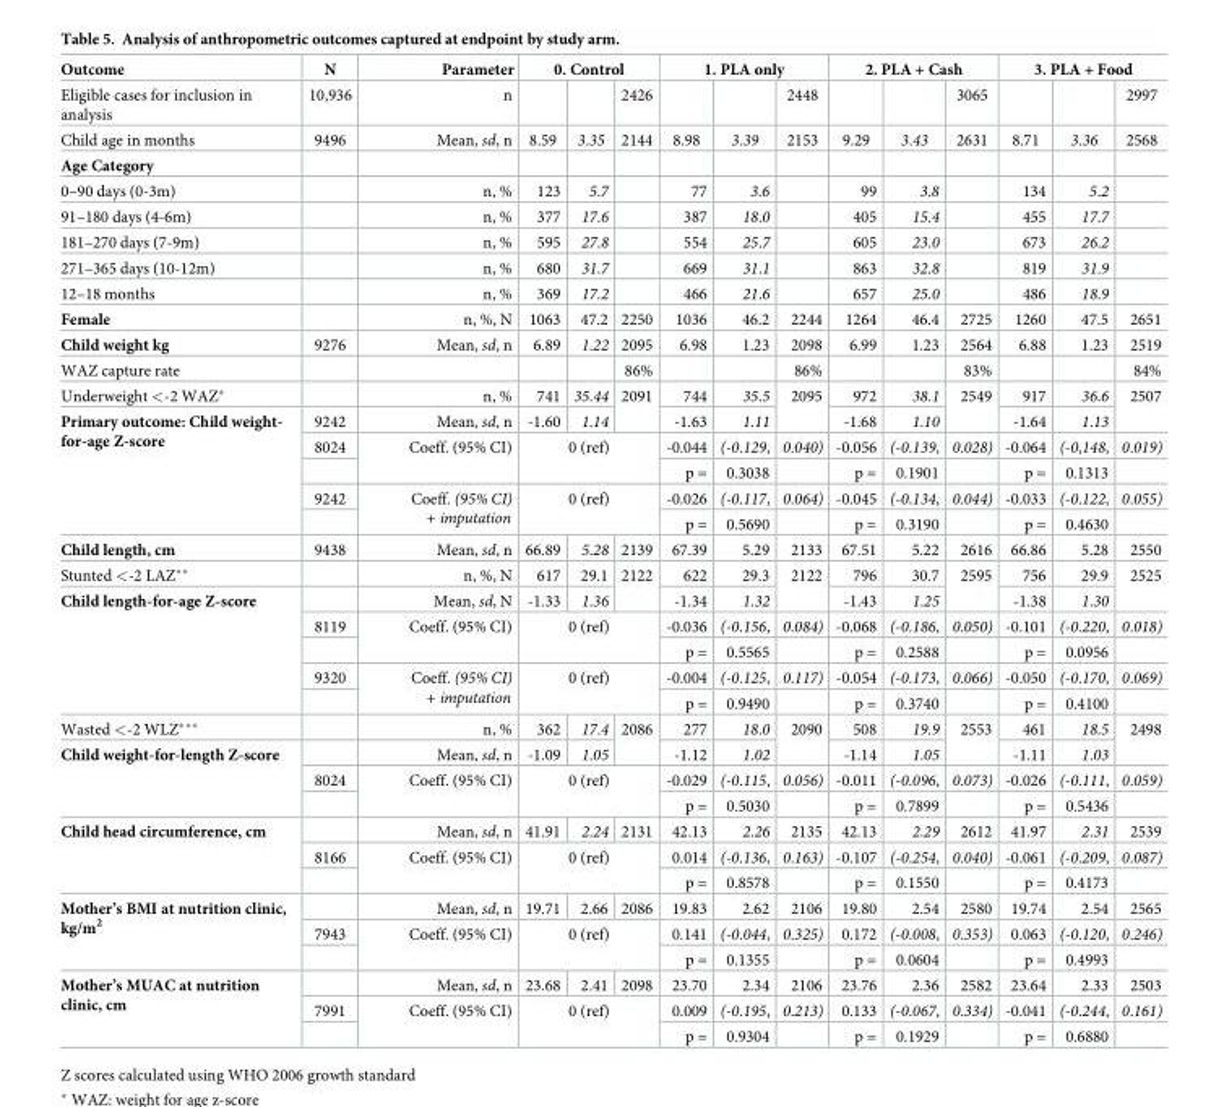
<table><thead><tr><td rowspan="2">Outcome Eligible cases for inclusion in analysis</td><td rowspan="2">N 10,936</td><td rowspan="2">Parameter n</td><td colspan="3">0. Control</td><td colspan="3">1. PLA only</td><td colspan="3">2. PLA + Cash</td><td colspan="3">3. PLA + Food</td></tr><tr><td></td><td></td><td>2426</td><td></td><td></td><td>2448</td><td></td><td></td><td>3065</td><td></td><td></td><td>2997</td></tr></thead><tbody><tr><td>Child age in months</td><td>9496</td><td>Mean, sd, n</td><td>8.59</td><td>3.35</td><td>2144</td><td>8.98</td><td>3.39</td><td>2153</td><td>9.29</td><td>3.43</td><td>2631</td><td>8.71</td><td>3.36</td><td>2568</td></tr><tr><td colspan="15">Age Category</td></tr><tr><td>0–90 days (0-3m)</td><td></td><td>n, %</td><td>123</td><td>5.7</td><td></td><td>77</td><td>3.6</td><td></td><td>99</td><td>3.8</td><td></td><td>134</td><td>5.2</td><td></td></tr><tr><td>91–180 days (4-6m)</td><td></td><td>n, %</td><td>377</td><td>17.6</td><td></td><td>387</td><td>18.0</td><td></td><td>405</td><td>15.4</td><td></td><td>455</td><td>17.7</td><td></td></tr><tr><td>181–270 days (7-9m)</td><td></td><td>n, %</td><td>595</td><td>27.8</td><td></td><td>554</td><td>25.7</td><td></td><td>605</td><td>23.0</td><td></td><td>673</td><td>26.2</td><td></td></tr><tr><td>271–365 days (10-12m)</td><td></td><td>n, %</td><td>680</td><td>31.7</td><td></td><td>669</td><td>31.1</td><td></td><td>863</td><td>32.8</td><td></td><td>819</td><td>31.9</td><td></td></tr><tr><td>12–18 months</td><td></td><td>n, %</td><td>369</td><td>17.2</td><td></td><td>466</td><td>21.6</td><td></td><td>657</td><td>25.0</td><td></td><td>486</td><td>18.9</td><td></td></tr><tr><td>Female</td><td></td><td>n, %, N</td><td>1063</td><td>47.2</td><td>2250</td><td>1036</td><td>46.2</td><td>2244</td><td>1264</td><td>46.4</td><td>2725</td><td>1260</td><td>47.5</td><td>2651</td></tr><tr><td>Child weight kg</td><td>9276</td><td>Mean, sd, n</td><td>6.89</td><td>1.22</td><td>2095</td><td>6.98</td><td>1.23</td><td>2098</td><td>6.99</td><td>1.23</td><td>2564</td><td>6.88</td><td>1.23</td><td>2519</td></tr><tr><td>WAZ capture rate</td><td></td><td></td><td></td><td></td><td>86%</td><td></td><td></td><td>86%</td><td></td><td></td><td>83%</td><td></td><td></td><td>84%</td></tr><tr><td>Underweight &lt;-2 WAZ*</td><td></td><td>n, %</td><td>741</td><td>35.44</td><td rowspan="2">2091</td><td>744</td><td>35.5</td><td rowspan="2">2095</td><td>972</td><td>38.1</td><td rowspan="2">2549</td><td>917</td><td>36.6</td><td rowspan="2">2507</td></tr><tr><td rowspan="5">Primary outcome: Child weight- for-age Z-score</td><td>9242</td><td>Mean, sd, n</td><td>-1.60</td><td>1.14</td><td>-1.63</td><td>1.11</td><td>-1.68</td><td>1.10</td><td>-1.64</td><td>1.13</td></tr><tr><td>8024</td><td rowspan="2">Coeff. (95% CI)</td><td rowspan="2" colspan="3">0 (ref)</td><td>-0.044</td><td>(-0.129,</td><td>0.040)</td><td>-0.056</td><td>(-0.139,</td><td>0.028)</td><td>-0.064</td><td>(-0,148,</td><td>0.019)</td></tr><tr><td></td><td>p =</td><td>0.3038</td><td></td><td>p =</td><td>0.1901</td><td></td><td>p =</td><td>0.1313</td><td></td></tr><tr><td>9242</td><td rowspan="2">Coeff. (95% CI) + imputation</td><td rowspan="2" colspan="3">0 (ref)</td><td>-0.026</td><td>(-0.117,</td><td>0.064)</td><td>-0.045</td><td>(-0.134,</td><td>0.044)</td><td>-0.033</td><td>(-0.122,</td><td>0.055)</td></tr><tr><td></td><td>p =</td><td>0.5690</td><td></td><td>p =</td><td>0.3190</td><td></td><td>p =</td><td>0.4630</td><td></td></tr><tr><td>Child length, cm</td><td>9438</td><td>Mean, sd, n</td><td>66.89</td><td>5.28</td><td>2139</td><td>67.39</td><td>5.29</td><td>2133</td><td>67.51</td><td>5.22</td><td>2616</td><td>66.86</td><td>5.28</td><td>2550</td></tr><tr><td>Stunted &lt;-2 LAZ**</td><td></td><td>n, %, N</td><td>617</td><td>29.1</td><td rowspan="2">2122</td><td>622</td><td>29.3</td><td rowspan="2">2122</td><td>796</td><td>30.7</td><td rowspan="2">2595</td><td>756</td><td>29.9</td><td rowspan="2">2525</td></tr><tr><td rowspan="5">Child length-for-age Z-score</td><td></td><td>Mean, sd, N</td><td>-1.33</td><td>1.36</td><td>-1.34</td><td>1.32</td><td>-1.43</td><td>1.25</td><td>-1.38</td><td>1.30</td></tr><tr><td>8119</td><td rowspan="2">Coeff. (95% CI)</td><td rowspan="2" colspan="3">0 (ref)</td><td>-0.036</td><td>(-0.156,</td><td>0.084)</td><td>-0.068</td><td>(-0.186,</td><td>0.050)</td><td>-0.101</td><td>(-0.220,</td><td>0.018)</td></tr><tr><td></td><td>p =</td><td>0.5565</td><td></td><td>p =</td><td>0.2588</td><td></td><td>p =</td><td>0.0956</td><td></td></tr><tr><td>9320</td><td rowspan="2">Coeff. (95% CI) + imputation</td><td rowspan="2" colspan="3">0 (ref)</td><td>-0.004</td><td>(-0.125,</td><td>0.117)</td><td>-0.054</td><td>(-0.173,</td><td>0.066)</td><td>-0.050</td><td>(-0.170,</td><td>0.069)</td></tr><tr><td></td><td>p =</td><td>0.9490</td><td></td><td>p =</td><td>0.3740</td><td></td><td>p =</td><td>0.4100</td><td></td></tr><tr><td>Wasted &lt;-2 WLZ***</td><td></td><td>n, %</td><td>362</td><td>17.4</td><td rowspan="2">2086</td><td>277</td><td>18.0</td><td rowspan="2">2090</td><td>508</td><td>19.9</td><td rowspan="2">2553</td><td>461</td><td>18.5</td><td rowspan="2">2498</td></tr><tr><td rowspan="3">Child weight-for-length Z-score</td><td></td><td>Mean, sd, n</td><td>-1.09</td><td>1.05</td><td>-1.12</td><td>1.02</td><td>-1.14</td><td>1.05</td><td>-1.11</td><td>1.03</td></tr><tr><td>8024</td><td rowspan="2">Coeff. (95% CI)</td><td rowspan="2" colspan="3">0 (ref)</td><td>-0.029</td><td>(-0.115,</td><td>0.056)</td><td>-0.011</td><td>(-0.096,</td><td>0.073)</td><td>-0.026</td><td>(-0.111,</td><td>0.059)</td></tr><tr><td></td><td>p =</td><td>0.5030</td><td></td><td>p =</td><td>0.7899</td><td></td><td>p =</td><td>0.5436</td><td></td></tr><tr><td rowspan="3">Child head circumference, cm</td><td></td><td>Mean, sd, n</td><td>41.91</td><td>2.24</td><td>2131</td><td>42.13</td><td>2.26</td><td>2135</td><td>42.13</td><td>2.29</td><td>2612</td><td>41.97</td><td>2.31</td><td>2539</td></tr><tr><td>8166</td><td rowspan="2">Coeff. (95% CI)</td><td rowspan="2" colspan="3">0 (ref)</td><td>0.014</td><td>(-0.136,</td><td>0.163)</td><td>-0.107</td><td>(-0.254,</td><td>0.040)</td><td>-0.061</td><td>(-0.209,</td><td>0.087)</td></tr><tr><td></td><td>p =</td><td>0.8578</td><td></td><td>p =</td><td>0.1550</td><td></td><td>p =</td><td>0.4173</td><td></td></tr><tr><td rowspan="3">Mother’s BMI at nutrition clinic, kg/m<sup>2</sup></td><td></td><td>Mean, sd, n</td><td>19.71</td><td>2.66</td><td>2086</td><td>19.83</td><td>2.62</td><td>2106</td><td>19.80</td><td>2.54</td><td>2580</td><td>19.74</td><td>2.54</td><td>2565</td></tr><tr><td>7943</td><td rowspan="2">Coeff. (95% CI)</td><td rowspan="2" colspan="3">0 (ref)</td><td>0.141</td><td>(-0.044,</td><td>0.325)</td><td>0.172</td><td>(-0.008,</td><td>0.353)</td><td>0.063</td><td>(-0.120,</td><td>0.246)</td></tr><tr><td></td><td>p =</td><td>0.1355</td><td></td><td>p =</td><td>0.0604</td><td></td><td>p =</td><td>0.4993</td><td></td></tr><tr><td rowspan="3">Mother’s MUAC at nutrition clinic, cm</td><td></td><td>Mean, sd, n</td><td>23.68</td><td>2.41</td><td>2098</td><td>23.70</td><td>2.34</td><td>2106</td><td>23.76</td><td>2.36</td><td>2582</td><td>23.64</td><td>2.33</td><td>2503</td></tr><tr><td>7991</td><td rowspan="2">Coeff. (95% CI)</td><td rowspan="2" colspan="3">0 (ref)</td><td>0.009</td><td>(-0.195,</td><td>0.213)</td><td>0.133</td><td>(-0.067,</td><td>0.334)</td><td>-0.041</td><td>(-0.244,</td><td>0.161)</td></tr><tr><td></td><td>p =</td><td>0.9304</td><td></td><td>p =</td><td>0.1929</td><td></td><td>p =</td><td>0.6880</td><td></td></tr></tbody></table>